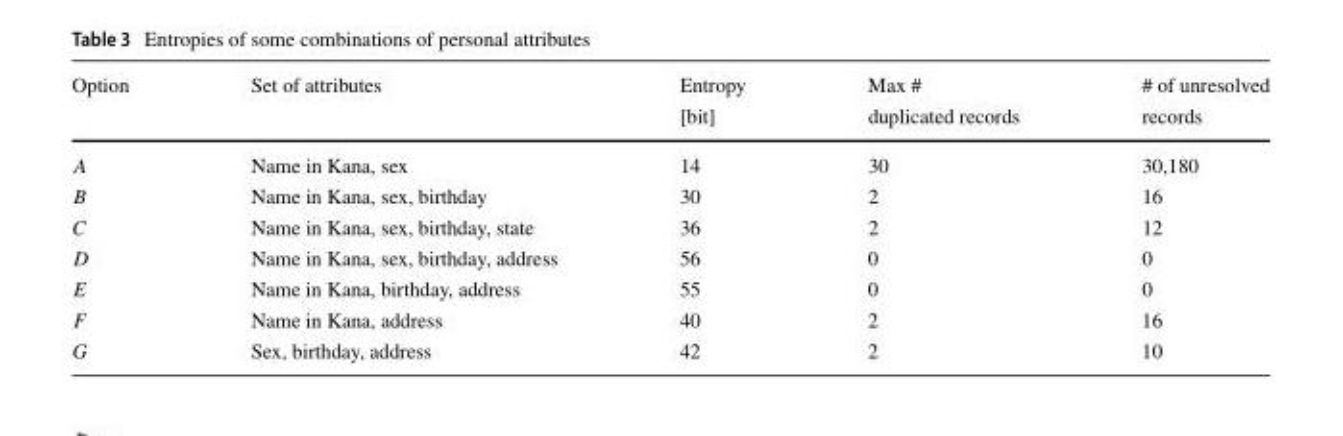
<table><thead><tr><td rowspan="2">Option</td><td rowspan="2">Set of attributes</td><td rowspan="2">Entropy [bit]</td><td rowspan="2">Max # duplicated records</td><td rowspan="2"># of unresolved records</td></tr><tr></tr></thead><tbody><tr><td>A</td><td>Name in Kana, sex</td><td>14</td><td>30</td><td>30,180</td></tr><tr><td>B</td><td>Name in Kana, sex, birthday</td><td>30</td><td>2</td><td>16</td></tr><tr><td>C</td><td>Name in Kana, sex, birthday, state</td><td>36</td><td>2</td><td>12</td></tr><tr><td>D</td><td>Name in Kana, sex, birthday, address</td><td>56</td><td>0</td><td>0</td></tr><tr><td>E</td><td>Name in Kana, birthday, address</td><td>55</td><td>0</td><td>0</td></tr><tr><td>F</td><td>Name in Kana, address</td><td>40</td><td>2</td><td>16</td></tr><tr><td>G</td><td>Sex, birthday, address</td><td>42</td><td>2</td><td>10</td></tr></tbody></table>